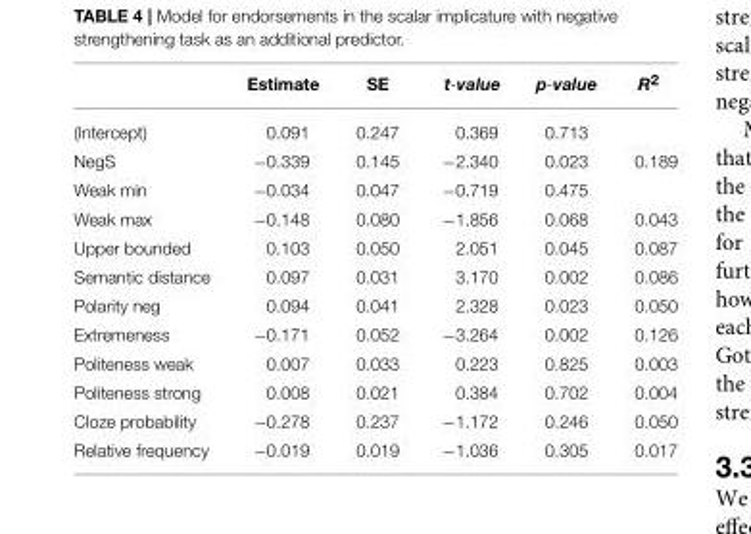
<table><thead><tr><td></td><td>Estimate</td><td>SE</td><td>t-value</td><td>p-value</td><td>R<sup>2</sup></td></tr></thead><tbody><tr><td>(Intercept)</td><td>0.091</td><td>0.247</td><td>0.369</td><td>0.713</td><td></td></tr><tr><td>NegS</td><td>−0.339</td><td>0.145</td><td>−2.340</td><td>0.023</td><td>0.189</td></tr><tr><td>Weak min</td><td>−0.034</td><td>0.047</td><td>−0.719</td><td>0.475</td><td></td></tr><tr><td>Weak max</td><td>−0.148</td><td>0.080</td><td>−1.856</td><td>0.068</td><td>0.043</td></tr><tr><td>Upper bounded</td><td>0.103</td><td>0.050</td><td>2.051</td><td>0.045</td><td>0.087</td></tr><tr><td>Semantic distance</td><td>0.097</td><td>0.031</td><td>3.170</td><td>0.002</td><td>0.086</td></tr><tr><td>Polarity neg</td><td>0.094</td><td>0.041</td><td>2.328</td><td>0.023</td><td>0.050</td></tr><tr><td>Extremeness</td><td>−0.171</td><td>0.052</td><td>−3.264</td><td>0.002</td><td>0.126</td></tr><tr><td>Politeness weak</td><td>0.007</td><td>0.033</td><td>0.223</td><td>0.825</td><td>0.003</td></tr><tr><td>Politeness strong</td><td>0.008</td><td>0.021</td><td>0.384</td><td>0.702</td><td>0.004</td></tr><tr><td>Cloze probability</td><td>−0.278</td><td>0.237</td><td>−1.172</td><td>0.246</td><td>0.050</td></tr><tr><td>Relative frequency</td><td>−0.019</td><td>0.019</td><td>−1.036</td><td>0.305</td><td>0.017</td></tr></tbody></table>